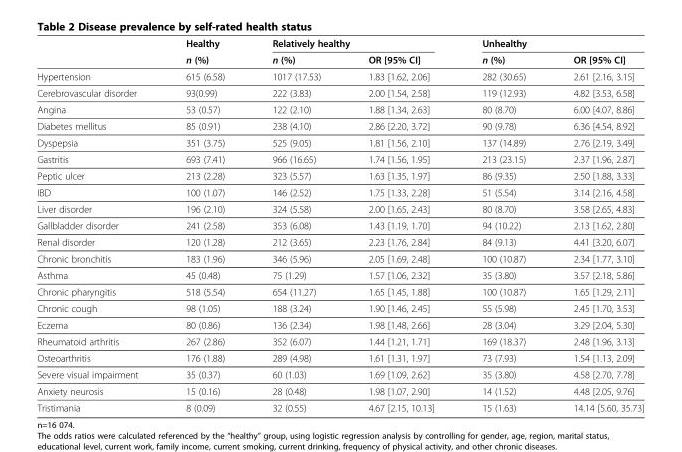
<table><thead><tr><td rowspan="2"></td><td rowspan="2">Healthy n (%)</td><td colspan="2">Relatively healthy</td><td colspan="2">Unhealthy</td></tr><tr><td>n (%)</td><td>OR [95% CI]</td><td>n (%)</td><td>OR [95% CI]</td></tr></thead><tbody><tr><td>Hypertension</td><td>615 (6.58)</td><td>1017 (17.53)</td><td>1.83 [1.62, 2.06]</td><td>282 (30.65)</td><td>2.61 [2.16, 3.15]</td></tr><tr><td>Cerebrovascular disorder</td><td>93(0.99)</td><td>222 (3.83)</td><td>2.00 [1.54, 2.58]</td><td>119 (12.93)</td><td>4.82 [3.53, 6.58]</td></tr><tr><td>Angina</td><td>53 (0.57)</td><td>122 (2.10)</td><td>1.88 [1.34, 2.63]</td><td>80 (8.70)</td><td>6.00 [4.07, 8.86]</td></tr><tr><td>Diabetes mellitus</td><td>85 (0.91)</td><td>238 (4.10)</td><td>2.86 [2.20, 3.72]</td><td>90 (9.78)</td><td>6.36 [4.54, 8.92]</td></tr><tr><td>Dyspepsia</td><td>351 (3.75)</td><td>525 (9.05)</td><td>1.81 [1.56, 2.10]</td><td>137 (14.89)</td><td>2.76 [2.19, 3.49]</td></tr><tr><td>Gastritis</td><td>693 (7.41)</td><td>966 (16.65)</td><td>1.74 [1.56, 1.95]</td><td>213 (23.15)</td><td>2.37 [1.96, 2.87]</td></tr><tr><td>Peptic ulcer</td><td>213 (2.28)</td><td>323 (5.57)</td><td>1.63 [1.35, 1.97]</td><td>86 (9.35)</td><td>2.50 [1.88, 3.33]</td></tr><tr><td>IBD</td><td>100 (1.07)</td><td>146 (2.52)</td><td>1.75 [1.33, 2.28]</td><td>51 (5.54)</td><td>3.14 [2.16, 4.58]</td></tr><tr><td>Liver disorder</td><td>196 (2.10)</td><td>324 (5.58)</td><td>2.00 [1.65, 2.43]</td><td>80 (8.70)</td><td>3.58 [2.65, 4.83]</td></tr><tr><td>Gallbladder disorder</td><td>241 (2.58)</td><td>353 (6.08)</td><td>1.43 [1.19, 1.70]</td><td>94 (10.22)</td><td>2.13 [1.62, 2.80]</td></tr><tr><td>Renal disorder</td><td>120 (1.28)</td><td>212 (3.65)</td><td>2.23 [1.76, 2.84]</td><td>84 (9.13)</td><td>4.41 [3.20, 6.07]</td></tr><tr><td>Chronic bronchitis</td><td>183 (1.96)</td><td>346 (5.96)</td><td>2.05 [1.69, 2.48]</td><td>100 (10.87)</td><td>2.34 [1.77, 3.10]</td></tr><tr><td>Asthma</td><td>45 (0.48)</td><td>75 (1.29)</td><td>1.57 [1.06, 2.32]</td><td>35 (3.80)</td><td>3.57 [2.18, 5.86]</td></tr><tr><td>Chronic pharyngitis</td><td>518 (5.54)</td><td>654 (11.27)</td><td>1.65 [1.45, 1.88]</td><td>100 (10.87)</td><td>1.65 [1.29, 2.11]</td></tr><tr><td>Chronic cough</td><td>98 (1.05)</td><td>188 (3.24)</td><td>1.90 [1.46, 2.45]</td><td>55 (5.98)</td><td>2.45 [1.70, 3.53]</td></tr><tr><td>Eczema</td><td>80 (0.86)</td><td>136 (2.34)</td><td>1.98 [1.48, 2.66]</td><td>28 (3.04)</td><td>3.29 [2.04, 5.30]</td></tr><tr><td>Rheumatoid arthritis</td><td>267 (2.86)</td><td>352 (6.07)</td><td>1.44 [1.21, 1.71]</td><td>169 (18.37)</td><td>2.48 [1.96, 3.13]</td></tr><tr><td>Osteoarthritis</td><td>176 (1.88)</td><td>289 (4.98)</td><td>1.61 [1.31, 1.97]</td><td>73 (7.93)</td><td>1.54 [1.13, 2.09]</td></tr><tr><td>Severe visual impairment</td><td>35 (0.37)</td><td>60 (1.03)</td><td>1.69 [1.09, 2.62]</td><td>35 (3.80)</td><td>4.58 [2.70, 7.78]</td></tr><tr><td>Anxiety neurosis</td><td>15 (0.16)</td><td>28 (0.48)</td><td>1.98 [1.07, 2.90]</td><td>14 (1.52)</td><td>4.48 [2.05, 9.76]</td></tr><tr><td>Tristimania</td><td>8 (0.09)</td><td>32 (0.55)</td><td>4.67 [2.15, 10.13]</td><td>15 (1.63)</td><td>14.14 [5.60, 35.73]</td></tr></tbody></table>